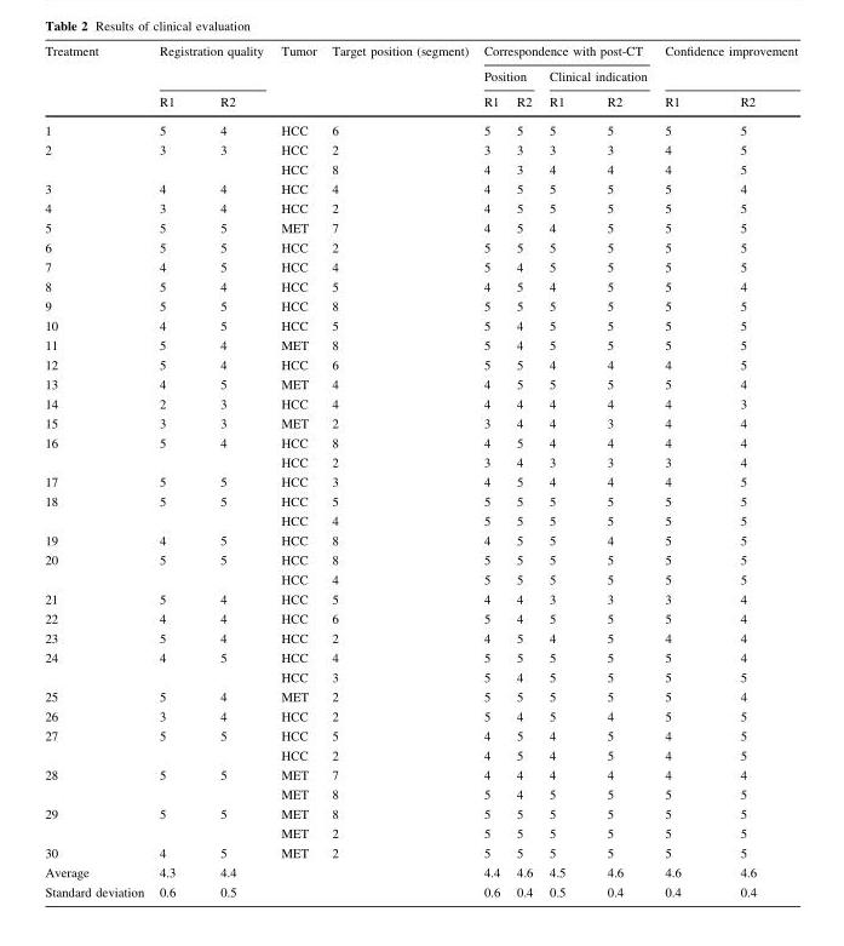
<table><thead><tr><td rowspan="3">Treatment</td><td rowspan="2" colspan="2">Registration quality</td><td rowspan="3">Tumor</td><td rowspan="3">Target position (segment)</td><td colspan="4">Correspondence with post-CT</td><td rowspan="2" colspan="2">Confidence improvement</td></tr><tr><td colspan="2">Position</td><td colspan="2">Clinical indication</td></tr><tr><td>R1</td><td>R2</td><td>R1</td><td>R2</td><td>R1</td><td>R2</td><td>R1</td><td>R2</td></tr></thead><tbody><tr><td>1</td><td>5</td><td>4</td><td>HCC</td><td>6</td><td>5</td><td>5</td><td>5</td><td>5</td><td>5</td><td>5</td></tr><tr><td rowspan="2">2</td><td rowspan="2">3</td><td rowspan="2">3</td><td>HCC</td><td>2</td><td>3</td><td>3</td><td>3</td><td>3</td><td>4</td><td>5</td></tr><tr><td>HCC</td><td>8</td><td>4</td><td>3</td><td>4</td><td>4</td><td>4</td><td>5</td></tr><tr><td>3</td><td>4</td><td>4</td><td>HCC</td><td>4</td><td>4</td><td>5</td><td>5</td><td>5</td><td>5</td><td>4</td></tr><tr><td>4</td><td>3</td><td>4</td><td>HCC</td><td>2</td><td>4</td><td>5</td><td>5</td><td>5</td><td>5</td><td>5</td></tr><tr><td>5</td><td>5</td><td>5</td><td>MET</td><td>7</td><td>4</td><td>5</td><td>4</td><td>5</td><td>5</td><td>5</td></tr><tr><td>6</td><td>5</td><td>5</td><td>HCC</td><td>2</td><td>5</td><td>5</td><td>5</td><td>5</td><td>5</td><td>5</td></tr><tr><td>7</td><td>4</td><td>5</td><td>HCC</td><td>4</td><td>5</td><td>4</td><td>5</td><td>5</td><td>5</td><td>5</td></tr><tr><td>8</td><td>5</td><td>4</td><td>HCC</td><td>5</td><td>4</td><td>5</td><td>4</td><td>5</td><td>5</td><td>4</td></tr><tr><td>9</td><td>5</td><td>5</td><td>HCC</td><td>8</td><td>5</td><td>5</td><td>5</td><td>5</td><td>5</td><td>5</td></tr><tr><td>10</td><td>4</td><td>5</td><td>HCC</td><td>5</td><td>5</td><td>4</td><td>5</td><td>5</td><td>5</td><td>5</td></tr><tr><td>11</td><td>5</td><td>4</td><td>MET</td><td>8</td><td>5</td><td>4</td><td>5</td><td>5</td><td>5</td><td>5</td></tr><tr><td>12</td><td>5</td><td>4</td><td>HCC</td><td>6</td><td>5</td><td>5</td><td>4</td><td>4</td><td>4</td><td>5</td></tr><tr><td>13</td><td>4</td><td>5</td><td>MET</td><td>4</td><td>4</td><td>5</td><td>5</td><td>5</td><td>5</td><td>4</td></tr><tr><td>14</td><td>2</td><td>3</td><td>HCC</td><td>4</td><td>4</td><td>4</td><td>4</td><td>4</td><td>4</td><td>3</td></tr><tr><td>15</td><td>3</td><td>3</td><td>MET</td><td>2</td><td>3</td><td>4</td><td>4</td><td>3</td><td>4</td><td>4</td></tr><tr><td rowspan="2">16</td><td rowspan="2">5</td><td rowspan="2">4</td><td>HCC</td><td>8</td><td>4</td><td>5</td><td>4</td><td>4</td><td>4</td><td>4</td></tr><tr><td>HCC</td><td>2</td><td>3</td><td>4</td><td>3</td><td>3</td><td>3</td><td>4</td></tr><tr><td>17</td><td>5</td><td>5</td><td>HCC</td><td>3</td><td>4</td><td>5</td><td>4</td><td>4</td><td>4</td><td>5</td></tr><tr><td rowspan="2">18</td><td rowspan="2">5</td><td rowspan="2">5</td><td>HCC</td><td>5</td><td>5</td><td>5</td><td>5</td><td>5</td><td>5</td><td>5</td></tr><tr><td>HCC</td><td>4</td><td>5</td><td>5</td><td>5</td><td>5</td><td>5</td><td>5</td></tr><tr><td>19</td><td>4</td><td>5</td><td>HCC</td><td>8</td><td>4</td><td>5</td><td>5</td><td>4</td><td>5</td><td>5</td></tr><tr><td rowspan="2">20</td><td rowspan="2">5</td><td rowspan="2">5</td><td>HCC</td><td>8</td><td>5</td><td>5</td><td>5</td><td>5</td><td>5</td><td>5</td></tr><tr><td>HCC</td><td>4</td><td>5</td><td>5</td><td>5</td><td>5</td><td>5</td><td>5</td></tr><tr><td>21</td><td>5</td><td>4</td><td>HCC</td><td>5</td><td>4</td><td>4</td><td>3</td><td>3</td><td>3</td><td>4</td></tr><tr><td>22</td><td>4</td><td>4</td><td>HCC</td><td>6</td><td>5</td><td>4</td><td>5</td><td>5</td><td>5</td><td>4</td></tr><tr><td>23</td><td>5</td><td>4</td><td>HCC</td><td>2</td><td>4</td><td>5</td><td>4</td><td>5</td><td>4</td><td>4</td></tr><tr><td rowspan="2">24</td><td rowspan="2">4</td><td rowspan="2">5</td><td>HCC</td><td>4</td><td>5</td><td>5</td><td>5</td><td>5</td><td>5</td><td>4</td></tr><tr><td>HCC</td><td>3</td><td>5</td><td>4</td><td>5</td><td>5</td><td>5</td><td>5</td></tr><tr><td>25</td><td>5</td><td>4</td><td>MET</td><td>2</td><td>5</td><td>5</td><td>5</td><td>5</td><td>5</td><td>4</td></tr><tr><td>26</td><td>3</td><td>4</td><td>HCC</td><td>2</td><td>5</td><td>4</td><td>5</td><td>4</td><td>5</td><td>5</td></tr><tr><td rowspan="2">27</td><td rowspan="2">5</td><td rowspan="2">5</td><td>HCC</td><td>5</td><td>4</td><td>5</td><td>4</td><td>5</td><td>4</td><td>5</td></tr><tr><td>HCC</td><td>2</td><td>4</td><td>5</td><td>4</td><td>5</td><td>4</td><td>5</td></tr><tr><td rowspan="2">28</td><td rowspan="2">5</td><td rowspan="2">5</td><td>MET</td><td>7</td><td>4</td><td>4</td><td>4</td><td>4</td><td>4</td><td>4</td></tr><tr><td>MET</td><td>8</td><td>5</td><td>4</td><td>5</td><td>5</td><td>5</td><td>5</td></tr><tr><td rowspan="2">29</td><td rowspan="2">5</td><td rowspan="2">5</td><td>MET</td><td>8</td><td>5</td><td>5</td><td>5</td><td>5</td><td>5</td><td>5</td></tr><tr><td>MET</td><td>2</td><td>5</td><td>5</td><td>5</td><td>5</td><td>5</td><td>5</td></tr><tr><td>30</td><td>4</td><td>5</td><td>MET</td><td>2</td><td>5</td><td>5</td><td>5</td><td>5</td><td>5</td><td>5</td></tr><tr><td>Average</td><td>4.3</td><td>4.4</td><td></td><td></td><td>4.4</td><td>4.6</td><td>4.5</td><td>4.6</td><td>4.6</td><td>4.6</td></tr><tr><td>Standard deviation</td><td>0.6</td><td>0.5</td><td></td><td></td><td>0.6</td><td>0.4</td><td>0.5</td><td>0.4</td><td>0.4</td><td>0.4</td></tr></tbody></table>